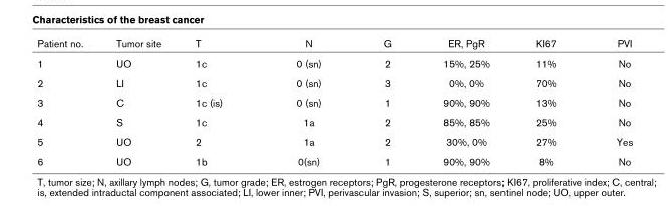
<table><thead><tr><td>Patient no.</td><td>Tumor site</td><td>T</td><td>N</td><td>G</td><td>ER, PgR</td><td>KI67</td><td>PVI</td></tr></thead><tbody><tr><td>1</td><td>UO</td><td>1c</td><td>0 (sn)</td><td>2</td><td>15%, 25%</td><td>11%</td><td>No</td></tr><tr><td>2</td><td>LI</td><td>1c</td><td>0 (sn)</td><td>3</td><td>0%, 0%</td><td>70%</td><td>No</td></tr><tr><td>3</td><td>C</td><td>1c (is)</td><td>0 (sn)</td><td>1</td><td>90%, 90%</td><td>13%</td><td>No</td></tr><tr><td>4</td><td>S</td><td>1c</td><td>1a</td><td>2</td><td>85%, 85%</td><td>25%</td><td>No</td></tr><tr><td>5</td><td>UO</td><td>2</td><td>1a</td><td>2</td><td>30%, 0%</td><td>27%</td><td>Yes</td></tr><tr><td>6</td><td>UO</td><td>1b</td><td>0(sn)</td><td>1</td><td>90%, 90%</td><td>8%</td><td>No</td></tr></tbody></table>